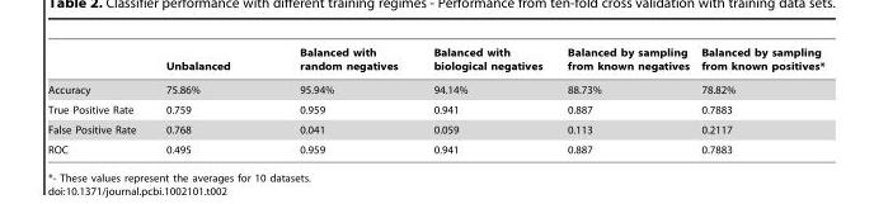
<table><thead><tr><td></td><td>Unbalanced</td><td>Balanced with random negatives</td><td>Balanced with biological negatives</td><td>Balanced by sampling from known negatives</td><td>Balanced by sampling from known positives*</td></tr></thead><tbody><tr><td>Accuracy</td><td>75.86%</td><td>95.94%</td><td>94.14%</td><td>88.73%</td><td>78.82%</td></tr><tr><td>True Positive Rate</td><td>0.759</td><td>0.959</td><td>0.941</td><td>0.887</td><td>0.7883</td></tr><tr><td>False Positive Rate</td><td>0.768</td><td>0.041</td><td>0.059</td><td>0.113</td><td>0.2117</td></tr><tr><td>ROC</td><td>0.495</td><td>0.959</td><td>0.941</td><td>0.887</td><td>0.7883</td></tr></tbody></table>